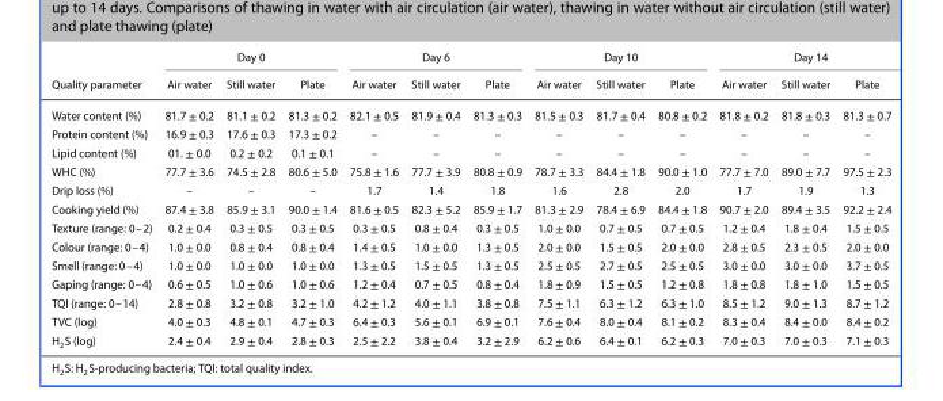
<table><thead><tr><td rowspan="2">Quality parameter</td><td colspan="3">Day 0</td><td colspan="3">Day 6</td><td colspan="3">Day 10</td><td colspan="3">Day 14</td></tr><tr><td>Air water</td><td>Still water</td><td>Plate</td><td>Air water</td><td>Still water</td><td>Plate</td><td>Air water</td><td>Still water</td><td>Plate</td><td>Air water</td><td>Still water</td><td>Plate</td></tr></thead><tbody><tr><td>Water content (%)</td><td>81.7 ± 0.2</td><td>81.1 ± 0.2</td><td>81.3 ± 0.2</td><td>82.1 ± 0.5</td><td>81.9 ± 0.4</td><td>81.3 ± 0.3</td><td>81.5 ± 0.3</td><td>81.7 ± 0.4</td><td>80.8 ± 0.2</td><td>81.8 ± 0.2</td><td>81.8 ± 0.3</td><td>81.3 ± 0.7</td></tr><tr><td>Protein content (%)</td><td>16.9 ± 0.3</td><td>17.6 ± 0.3</td><td>17.3 ± 0.2</td><td>–</td><td>–</td><td>–</td><td>–</td><td>–</td><td>–</td><td>–</td><td>–</td><td>–</td></tr><tr><td>Lipid content (%)</td><td>01. ± 0.0</td><td>0.2 ± 0.2</td><td>0.1 ± 0.1</td><td>–</td><td>–</td><td>–</td><td>–</td><td>–</td><td>–</td><td>–</td><td>–</td><td>–</td></tr><tr><td>WHC (%)</td><td>77.7 ± 3.6</td><td>74.5 ± 2.8</td><td>80.6 ± 5.0</td><td>75.8 ± 1.6</td><td>77.7 ± 3.9</td><td>80.8 ± 0.9</td><td>78.7 ± 3.3</td><td>84.4 ± 1.8</td><td>90.0 ± 1.0</td><td>77.7 ± 7.0</td><td>89.0 ± 7.7</td><td>97.5 ± 2.3</td></tr><tr><td>Drip loss (%)</td><td>–</td><td>–</td><td>–</td><td>1.7</td><td>1.4</td><td>1.8</td><td>1.6</td><td>2.8</td><td>2.0</td><td>1.7</td><td>1.9</td><td>1.3</td></tr><tr><td>Cooking yield (%)</td><td>87.4 ± 3.8</td><td>85.9 ± 3.1</td><td>90.0 ± 1.4</td><td>81.6 ± 0.5</td><td>82.3 ± 5.2</td><td>85.9 ± 1.7</td><td>81.3 ± 2.9</td><td>78.4 ± 6.9</td><td>84.4 ± 1.8</td><td>90.7 ± 2.0</td><td>89.4 ± 3.5</td><td>92.2 ± 2.4</td></tr><tr><td>Texture (range: 0–2)</td><td>0.2 ± 0.4</td><td>0.3 ± 0.5</td><td>0.3 ± 0.5</td><td>0.3 ± 0.5</td><td>0.8 ± 0.4</td><td>0.3 ± 0.5</td><td>1.0 ± 0.0</td><td>0.7 ± 0.5</td><td>0.7 ± 0.5</td><td>1.2 ± 0.4</td><td>1.8 ± 0.4</td><td>1.5 ± 0.5</td></tr><tr><td>Colour (range: 0–4)</td><td>1.0 ± 0.0</td><td>0.8 ± 0.4</td><td>0.8 ± 0.4</td><td>1.4 ± 0.5</td><td>1.0 ± 0.0</td><td>1.3 ± 0.5</td><td>2.0 ± 0.0</td><td>1.5 ± 0.5</td><td>2.0 ± 0.0</td><td>2.8 ± 0.5</td><td>2.3 ± 0.5</td><td>2.0 ± 0.0</td></tr><tr><td>Smell (range: 0–4)</td><td>1.0 ± 0.0</td><td>1.0 ± 0.0</td><td>1.0 ± 0.0</td><td>1.3 ± 0.5</td><td>1.5 ± 0.5</td><td>1.3 ± 0.5</td><td>2.5 ± 0.5</td><td>2.7 ± 0.5</td><td>2.5 ± 0.5</td><td>3.0 ± 0.0</td><td>3.0 ± 0.0</td><td>3.7 ± 0.5</td></tr><tr><td>Gaping (range: 0–4)</td><td>0.6 ± 0.5</td><td>1.0 ± 0.6</td><td>1.0 ± 0.6</td><td>1.2 ± 0.4</td><td>0.7 ± 0.5</td><td>0.8 ± 0.4</td><td>1.8 ± 0.9</td><td>1.5 ± 0.5</td><td>1.2 ± 0.8</td><td>1.8 ± 0.8</td><td>1.8 ± 1.0</td><td>1.5 ± 0.5</td></tr><tr><td>TQI (range: 0–14)</td><td>2.8 ± 0.8</td><td>3.2 ± 0.8</td><td>3.2 ± 1.0</td><td>4.2 ± 1.2</td><td>4.0 ± 1.1</td><td>3.8 ± 0.8</td><td>7.5 ± 1.1</td><td>6.3 ± 1.2</td><td>6.3 ± 1.0</td><td>8.5 ± 1.2</td><td>9.0 ± 1.3</td><td>8.7 ± 1.2</td></tr><tr><td>TVC (log)</td><td>4.0 ± 0.3</td><td>4.8 ± 0.1</td><td>4.7 ± 0.3</td><td>6.4 ± 0.3</td><td>5.6 ± 0.1</td><td>6.9 ± 0.1</td><td>7.6 ± 0.4</td><td>8.0 ± 0.4</td><td>8.1 ± 0.2</td><td>8.3 ± 0.4</td><td>8.4 ± 0.0</td><td>8.4 ± 0.2</td></tr><tr><td>H<sub>2</sub>S (log)</td><td>2.4 ± 0.4</td><td>2.9 ± 0.4</td><td>2.8 ± 0.3</td><td>2.5 ± 2.2</td><td>3.8 ± 0.4</td><td>3.2 ± 2.9</td><td>6.2 ± 0.6</td><td>6.4 ± 0.1</td><td>6.2 ± 0.3</td><td>7.0 ± 0.3</td><td>7.0 ± 0.3</td><td>7.1 ± 0.3</td></tr></tbody></table>